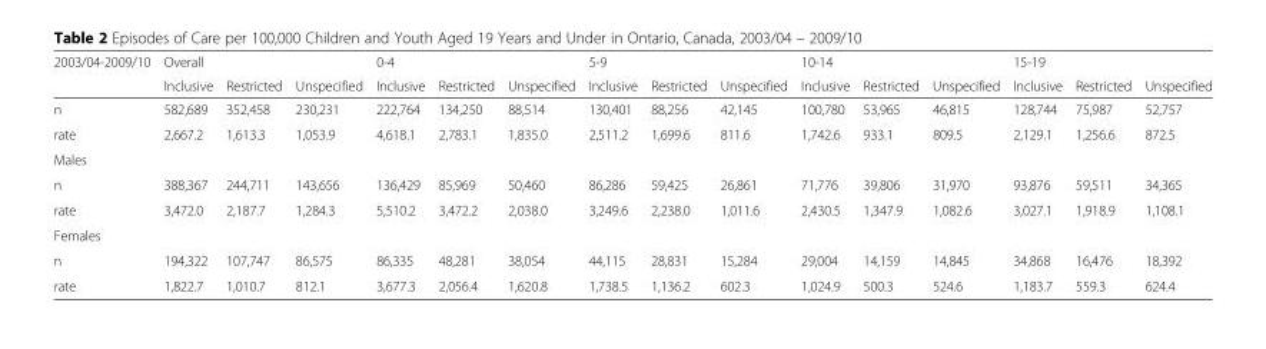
<table><thead><tr><td rowspan="2">2003/04-2009/10</td><td colspan="3">Overall</td><td colspan="3">0-4</td><td colspan="3">5-9</td><td colspan="3">10-14</td><td colspan="3">15-19</td></tr><tr><td>Inclusive</td><td>Restricted</td><td>Unspecified</td><td>Inclusive</td><td>Restricted</td><td>Unspecified</td><td>Inclusive</td><td>Restricted</td><td>Unspecified</td><td>Inclusive</td><td>Restricted</td><td>Unspecified</td><td>Inclusive</td><td>Restricted</td><td>Unspecified</td></tr></thead><tbody><tr><td>n</td><td>582,689</td><td>352,458</td><td>230,231</td><td>222,764</td><td>134,250</td><td>88,514</td><td>130,401</td><td>88,256</td><td>42,145</td><td>100,780</td><td>53,965</td><td>46,815</td><td>128,744</td><td>75,987</td><td>52,757</td></tr><tr><td>rate</td><td>2,667.2</td><td>1,613.3</td><td>1,053.9</td><td>4,618.1</td><td>2,783.1</td><td>1,835.0</td><td>2,511.2</td><td>1,699.6</td><td>811.6</td><td>1,742.6</td><td>933.1</td><td>809.5</td><td>2,129.1</td><td>1,256.6</td><td>872.5</td></tr><tr><td colspan="16">Males</td></tr><tr><td>n</td><td>388,367</td><td>244,711</td><td>143,656</td><td>136,429</td><td>85,969</td><td>50,460</td><td>86,286</td><td>59,425</td><td>26,861</td><td>71,776</td><td>39,806</td><td>31,970</td><td>93,876</td><td>59,511</td><td>34,365</td></tr><tr><td>rate</td><td>3,472.0</td><td>2,187.7</td><td>1,284.3</td><td>5,510.2</td><td>3,472.2</td><td>2,038.0</td><td>3,249.6</td><td>2,238.0</td><td>1,011.6</td><td>2,430.5</td><td>1,347.9</td><td>1,082.6</td><td>3,027.1</td><td>1,918.9</td><td>1,108.1</td></tr><tr><td colspan="16">Females</td></tr><tr><td>n</td><td>194,322</td><td>107,747</td><td>86,575</td><td>86,335</td><td>48,281</td><td>38,054</td><td>44,115</td><td>28,831</td><td>15,284</td><td>29,004</td><td>14,159</td><td>14,845</td><td>34,868</td><td>16,476</td><td>18,392</td></tr><tr><td>rate</td><td>1,822.7</td><td>1,010.7</td><td>812.1</td><td>3,677.3</td><td>2,056.4</td><td>1,620.8</td><td>1,738.5</td><td>1,136.2</td><td>602.3</td><td>1,024.9</td><td>500.3</td><td>524.6</td><td>1,183.7</td><td>559.3</td><td>624.4</td></tr></tbody></table>